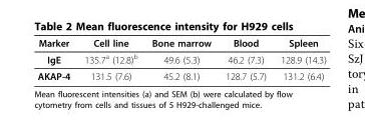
<table><thead><tr><td>Marker</td><td>Cell line</td><td>Bone marrow</td><td>Blood</td><td>Spleen</td></tr></thead><tbody><tr><td>IgE</td><td>135.7<sup>a</sup> (12.8)<sup>b</sup></td><td>49.6 (5.3)</td><td>46.2 (7.3)</td><td>128.9 (14.3)</td></tr><tr><td>AKAP-4</td><td>131.5 (7.6)</td><td>45.2 (8.1)</td><td>128.7 (5.7)</td><td>131.2 (6.4)</td></tr></tbody></table>